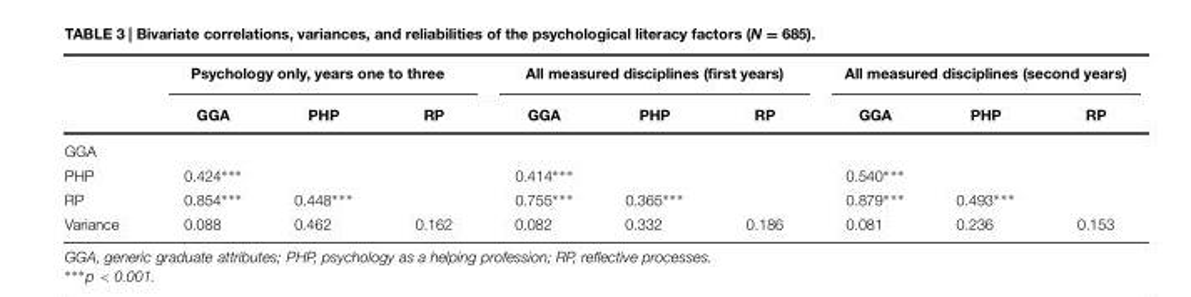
<table><thead><tr><td rowspan="2"></td><td colspan="3">Psychology only, years one to three</td><td colspan="3">All measured disciplines (first years)</td><td colspan="3">All measured disciplines (second years)</td></tr><tr><td>GGA</td><td>PHP</td><td>RP</td><td>GGA</td><td>PHP</td><td>RP</td><td>GGA</td><td>PHP</td><td>RP</td></tr></thead><tbody><tr><td colspan="10">GGA</td></tr><tr><td>PHP</td><td>0.424∗∗∗</td><td></td><td></td><td>0.414∗∗∗</td><td></td><td></td><td>0.540∗∗∗</td><td></td><td></td></tr><tr><td>RP</td><td>0.854∗∗∗</td><td>0.448∗∗∗</td><td></td><td>0.755∗∗∗</td><td>0.365∗∗∗</td><td></td><td>0.879∗∗∗</td><td>0.493∗∗∗</td><td></td></tr><tr><td>Variance</td><td>0.088</td><td>0.462</td><td>0.162</td><td>0.082</td><td>0.332</td><td>0.186</td><td>0.081</td><td>0.236</td><td>0.153</td></tr></tbody></table>